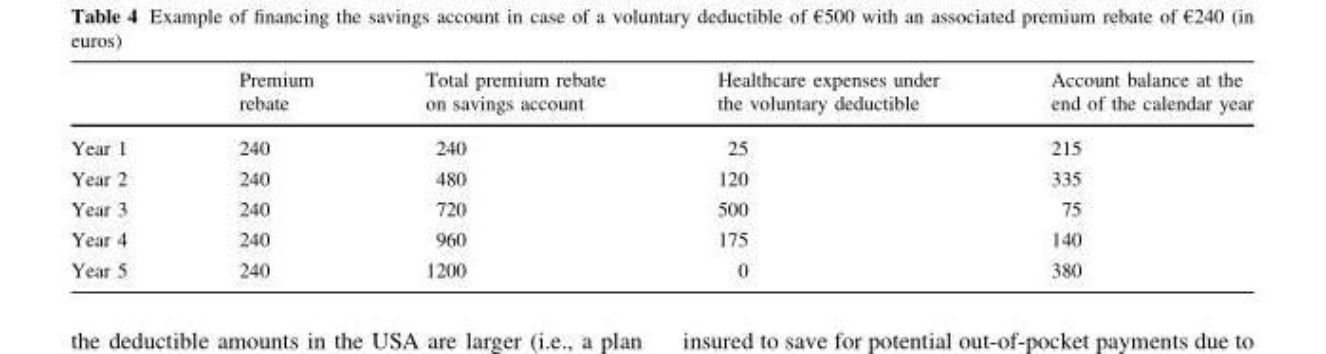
<table><thead><tr><td></td><td>Premium rebate</td><td>Total premium rebate on savings account</td><td>Healthcare expenses under the voluntary deductible</td><td>Account balance at the end of the calendar year</td></tr></thead><tbody><tr><td>Year 1</td><td>240</td><td>240</td><td>25</td><td>215</td></tr><tr><td>Year 2</td><td>240</td><td>480</td><td>120</td><td>335</td></tr><tr><td>Year 3</td><td>240</td><td>720</td><td>500</td><td>75</td></tr><tr><td>Year 4</td><td>240</td><td>960</td><td>175</td><td>140</td></tr><tr><td>Year 5</td><td>240</td><td>1200</td><td>0</td><td>380</td></tr></tbody></table>